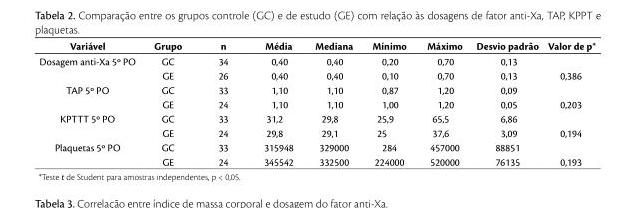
<table><thead><tr><td>Variável</td><td>Grupo</td><td>n</td><td>Média</td><td>Mediana</td><td>Mínimo</td><td>Máximo</td><td>Desvio padrão</td><td>Valor de p*</td></tr></thead><tbody><tr><td rowspan="2">Dosagem anti-Xa 5º PO</td><td>GC</td><td>34</td><td>0,40</td><td>0,40</td><td>0,20</td><td>0,70</td><td>0,13</td><td></td></tr><tr><td>GE</td><td>26</td><td>0,40</td><td>0,40</td><td>0,10</td><td>0,70</td><td>0,13</td><td>0,386</td></tr><tr><td rowspan="2">TAP 5º PO</td><td>GC</td><td>33</td><td>1,10</td><td>1,10</td><td>0,87</td><td>1,20</td><td>0,09</td><td></td></tr><tr><td>GE</td><td>24</td><td>1,10</td><td>1,10</td><td>1,00</td><td>1,20</td><td>0,05</td><td>0,203</td></tr><tr><td rowspan="2">KPTTT 5º PO</td><td>GC</td><td>33</td><td>31,2</td><td>29,8</td><td>25,9</td><td>65,5</td><td>6,86</td><td></td></tr><tr><td>GE</td><td>24</td><td>29,8</td><td>29,1</td><td>25</td><td>37,6</td><td>3,09</td><td>0,194</td></tr><tr><td rowspan="2">Plaquetas 5º PO</td><td>GC</td><td>33</td><td>315948</td><td>329000</td><td>284</td><td>457000</td><td>88851</td><td></td></tr><tr><td>GE</td><td>24</td><td>345542</td><td>332500</td><td>224000</td><td>520000</td><td>76135</td><td>0,193</td></tr></tbody></table>